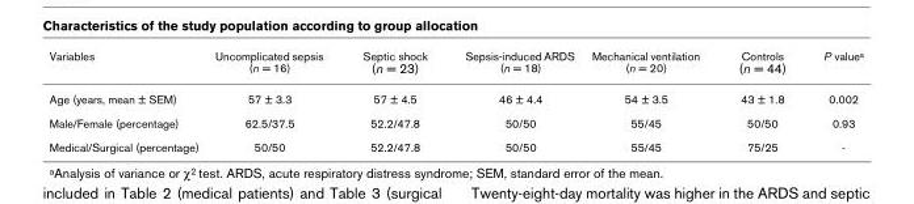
<table><thead><tr><td>Variables</td><td>Uncomplicated sepsis (n = 16)</td><td>Septic shock (n = 23)</td><td>Sepsis-induced ARDS (n = 18)</td><td>Mechanical ventilation (n = 20)</td><td>Controls (n = 44)</td><td>P valuea</td></tr></thead><tbody><tr><td>Age (years, mean ± SEM)</td><td>57 ± 3.3</td><td>57 ± 4.5</td><td>46 ± 4.4</td><td>54 ± 3.5</td><td>43 ± 1.8</td><td>0.002</td></tr><tr><td>Male/Female (percentage)</td><td>62.5/37.5</td><td>52.2/47.8</td><td>50/50</td><td>55/45</td><td>50/50</td><td>0.93</td></tr><tr><td>Medical/Surgical (percentage)</td><td>50/50</td><td>52.2/47.8</td><td>50/50</td><td>55/45</td><td>75/25</td><td>-</td></tr></tbody></table>